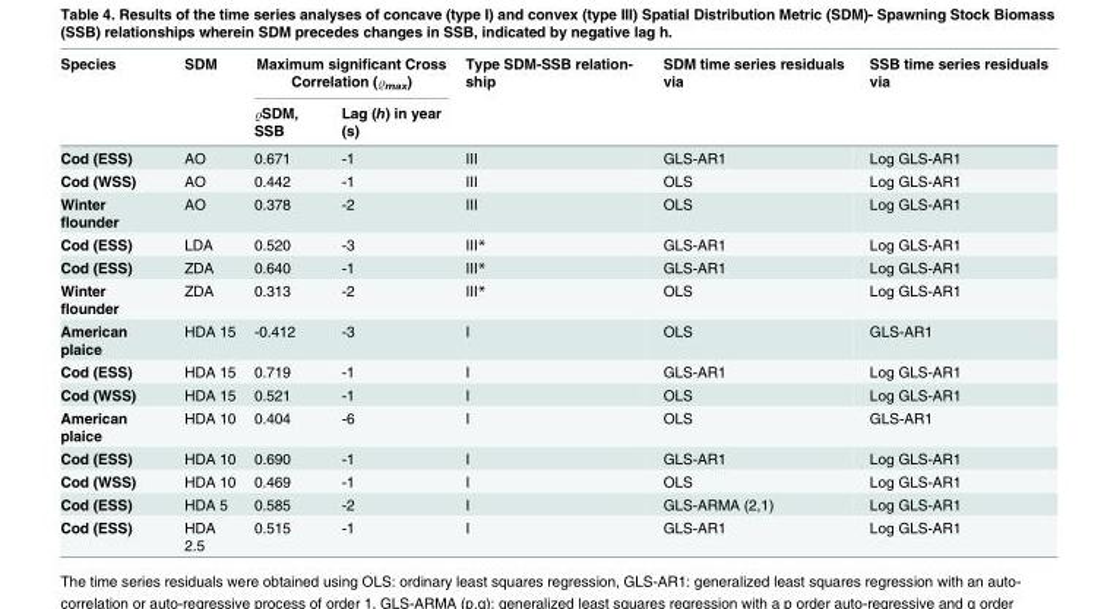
<table><thead><tr><td rowspan="2">Species</td><td rowspan="2">SDM</td><td colspan="2">Maximum significant Cross Correlation (%max)</td><td rowspan="2">Type SDM-SSB relation- ship</td><td rowspan="2">SDM time series residuals via</td><td rowspan="2">SSB time series residuals via</td></tr><tr><td>%SDM, SSB</td><td>Lag (h) in year (s)</td></tr></thead><tbody><tr><td>Cod (ESS)</td><td>AO</td><td>0.671</td><td>-1</td><td>III</td><td>GLS-AR1</td><td>Log GLS-AR1</td></tr><tr><td>Cod (WSS)</td><td>AO</td><td>0.442</td><td>-1</td><td>III</td><td>OLS</td><td>Log GLS-AR1</td></tr><tr><td>Winter flounder</td><td>AO</td><td>0.378</td><td>-2</td><td>III</td><td>OLS</td><td>Log GLS-AR1</td></tr><tr><td>Cod (ESS)</td><td>LDA</td><td>0.520</td><td>-3</td><td>III*</td><td>GLS-AR1</td><td>Log GLS-AR1</td></tr><tr><td>Cod (ESS)</td><td>ZDA</td><td>0.640</td><td>-1</td><td>III*</td><td>GLS-AR1</td><td>Log GLS-AR1</td></tr><tr><td>Winter flounder</td><td>ZDA</td><td>0.313</td><td>-2</td><td>III*</td><td>OLS</td><td>Log GLS-AR1</td></tr><tr><td>American plaice</td><td>HDA 15</td><td>-0.412</td><td>-3</td><td>I</td><td>OLS</td><td>GLS-AR1</td></tr><tr><td>Cod (ESS)</td><td>HDA 15</td><td>0.719</td><td>-1</td><td>I</td><td>GLS-AR1</td><td>Log GLS-AR1</td></tr><tr><td>Cod (WSS)</td><td>HDA 15</td><td>0.521</td><td>-1</td><td>I</td><td>OLS</td><td>Log GLS-AR1</td></tr><tr><td>American plaice</td><td>HDA 10</td><td>0.404</td><td>-6</td><td>I</td><td>OLS</td><td>GLS-AR1</td></tr><tr><td>Cod (ESS)</td><td>HDA 10</td><td>0.690</td><td>-1</td><td>I</td><td>GLS-AR1</td><td>Log GLS-AR1</td></tr><tr><td>Cod (WSS)</td><td>HDA 10</td><td>0.469</td><td>-1</td><td>I</td><td>OLS</td><td>Log GLS-AR1</td></tr><tr><td>Cod (ESS)</td><td>HDA 5</td><td>0.585</td><td>-2</td><td>I</td><td>GLS-ARMA (2,1)</td><td>Log GLS-AR1</td></tr><tr><td>Cod (ESS)</td><td>HDA 2.5</td><td>0.515</td><td>-1</td><td>I</td><td>GLS-AR1</td><td>Log GLS-AR1</td></tr></tbody></table>